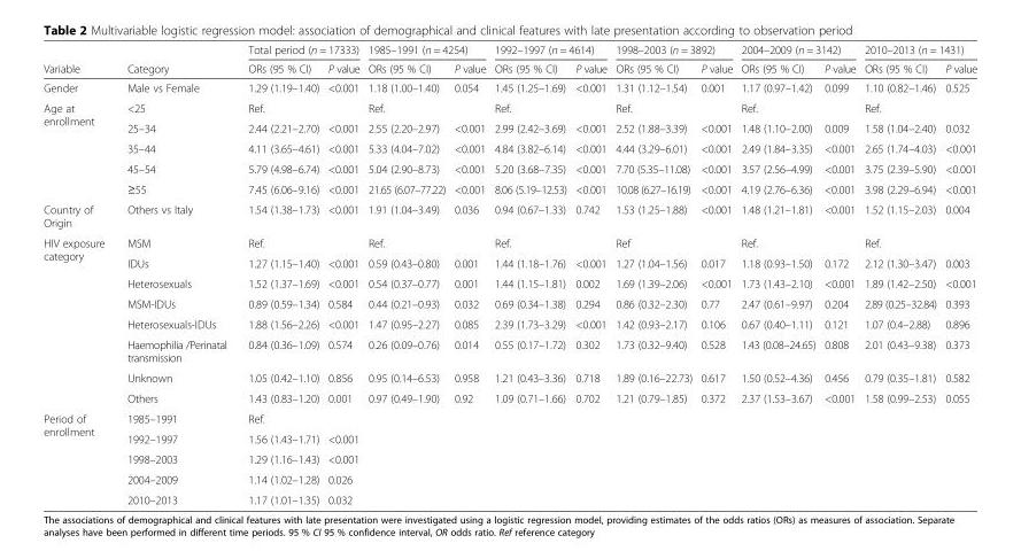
<table><thead><tr><td rowspan="2">Variable</td><td rowspan="2">Category</td><td colspan="2">Total period (n = 17333)</td><td colspan="2">1985–1991 (n = 4254)</td><td colspan="2">1992–1997 (n = 4614)</td><td colspan="2">1998–2003 (n = 3892)</td><td colspan="2">2004–2009 (n = 3142)</td><td colspan="2">2010–2013 (n = 1431)</td></tr><tr><td>ORs (95 % CI)</td><td>P value</td><td>ORs (95 % CI)</td><td>P value</td><td>ORs (95 % CI)</td><td>P value</td><td>ORs (95 % CI)</td><td>P value</td><td>ORs (95 % CI)</td><td>P value</td><td>ORs (95 % CI)</td><td>P value</td></tr></thead><tbody><tr><td>Gender</td><td>Male vs Female</td><td>1.29 (1.19–1.40)</td><td>&lt;0.001</td><td>1.18 (1.00–1.40)</td><td>0.054</td><td>1.45 (1.25–1.69)</td><td>&lt;0.001</td><td>1.31 (1.12–1.54)</td><td>0.001</td><td>1.17 (0.97–1.42)</td><td>0.099</td><td>1.10 (0.82–1.46)</td><td>0.525</td></tr><tr><td rowspan="5">Age at enrollment</td><td>&lt;25</td><td>Ref.</td><td></td><td>Ref.</td><td></td><td>Ref.</td><td></td><td>Ref.</td><td></td><td>Ref.</td><td></td><td>Ref.</td><td></td></tr><tr><td>25–34</td><td>2.44 (2.21–2.70)</td><td>&lt;0.001</td><td>2.55 (2.20–2.97)</td><td>&lt;0.001</td><td>2.99 (2.42–3.69)</td><td>&lt;0.001</td><td>2.52 (1.88–3.39)</td><td>&lt;0.001</td><td>1.48 (1.10–2.00)</td><td>0.009</td><td>1.58 (1.04–2.40)</td><td>0.032</td></tr><tr><td>35–44</td><td>4.11 (3.65–4.61)</td><td>&lt;0.001</td><td>5.33 (4.04–7.02)</td><td>&lt;0.001</td><td>4.84 (3.82–6.14)</td><td>&lt;0.001</td><td>4.44 (3.29–6.01)</td><td>&lt;0.001</td><td>2.49 (1.84–3.35)</td><td>&lt;0.001</td><td>2.65 (1.74–4.03)</td><td>&lt;0.001</td></tr><tr><td>45–54</td><td>5.79 (4.98–6.74)</td><td>&lt;0.001</td><td>5.04 (2.90–8.73)</td><td>&lt;0.001</td><td>5.20 (3.68–7.35)</td><td>&lt;0.001</td><td>7.70 (5.35–11.08)</td><td>&lt;0.001</td><td>3.57 (2.56–4.99)</td><td>&lt;0.001</td><td>3.75 (2.39–5.90)</td><td>&lt;0.001</td></tr><tr><td>≥55</td><td>7.45 (6.06–9.16)</td><td>&lt;0.001</td><td>21.65 (6.07–77.22)</td><td>&lt;0.001</td><td>8.06 (5.19–12.53)</td><td>&lt;0.001</td><td>10.08 (6.27–16.19)</td><td>&lt;0.001</td><td>4.19 (2.76–6.36)</td><td>&lt;0.001</td><td>3.98 (2.29–6.94)</td><td>&lt;0.001</td></tr><tr><td>Country of Origin</td><td>Others vs Italy</td><td>1.54 (1.38–1.73)</td><td>&lt;0.001</td><td>1.91 (1.04–3.49)</td><td>0.036</td><td>0.94 (0.67–1.33)</td><td>0.742</td><td>1.53 (1.25–1.88)</td><td>&lt;0.001</td><td>1.48 (1.21–1.81)</td><td>&lt;0.001</td><td>1.52 (1.15–2.03)</td><td>0.004</td></tr><tr><td rowspan="8">HIV exposure category</td><td>MSM</td><td>Ref.</td><td></td><td>Ref.</td><td></td><td>Ref.</td><td></td><td>Ref</td><td></td><td>Ref.</td><td></td><td>Ref.</td><td></td></tr><tr><td>IDUs</td><td>1.27 (1.15–1.40)</td><td>&lt;0.001</td><td>0.59 (0.43–0.80)</td><td>0.001</td><td>1.44 (1.18–1.76)</td><td>&lt;0.001</td><td>1.27 (1.04–1.56)</td><td>0.017</td><td>1.18 (0.93–1.50)</td><td>0.172</td><td>2.12 (1.30–3.47)</td><td>0.003</td></tr><tr><td>Heterosexuals</td><td>1.52 (1.37–1.69)</td><td>&lt;0.001</td><td>0.54 (0.37–0.77)</td><td>0.001</td><td>1.44 (1.15–1.81)</td><td>0.002</td><td>1.69 (1.39–2.06)</td><td>&lt;0.001</td><td>1.73 (1.43–2.10)</td><td>&lt;0.001</td><td>1.89 (1.42–2.50)</td><td>&lt;0.001</td></tr><tr><td>MSM-IDUs</td><td>0.89 (0.59–1.34)</td><td>0.584</td><td>0.44 (0.21–0.93)</td><td>0.032</td><td>0.69 (0.34–1.38)</td><td>0.294</td><td>0.86 (0.32–2.30)</td><td>0.77</td><td>2.47 (0.61–9.97)</td><td>0.204</td><td>2.89 (0.25–32.84)</td><td>0.393</td></tr><tr><td>Heterosexuals-IDUs</td><td>1.88 (1.56–2.26)</td><td>&lt;0.001</td><td>1.47 (0.95–2.27)</td><td>0.085</td><td>2.39 (1.73–3.29)</td><td>&lt;0.001</td><td>1.42 (0.93–2.17)</td><td>0.106</td><td>0.67 (0.40–1.11)</td><td>0.121</td><td>1.07 (0.4–2.88)</td><td>0.896</td></tr><tr><td>Haemophilia /Perinatal transmission</td><td>0.84 (0.36–1.09)</td><td>0.574</td><td>0.26 (0.09–0.76)</td><td>0.014</td><td>0.55 (0.17–1.72)</td><td>0.302</td><td>1.73 (0.32–9.40)</td><td>0.528</td><td>1.43 (0.08–24.65)</td><td>0.808</td><td>2.01 (0.43–9.38)</td><td>0.373</td></tr><tr><td>Unknown</td><td>1.05 (0.42–1.10)</td><td>0.856</td><td>0.95 (0.14–6.53)</td><td>0.958</td><td>1.21 (0.43–3.36)</td><td>0.718</td><td>1.89 (0.16–22.73)</td><td>0.617</td><td>1.50 (0.52–4.36)</td><td>0.456</td><td>0.79 (0.35–1.81)</td><td>0.582</td></tr><tr><td>Others</td><td>1.43 (0.83–1.20)</td><td>0.001</td><td>0.97 (0.49–1.90)</td><td>0.92</td><td>1.09 (0.71–1.66)</td><td>0.702</td><td>1.21 (0.79–1.85)</td><td>0.372</td><td>2.37 (1.53–3.67)</td><td>&lt;0.001</td><td>1.58 (0.99–2.53)</td><td>0.055</td></tr><tr><td rowspan="5">Period of enrollment</td><td>1985–1991</td><td>Ref.</td><td></td><td></td><td></td><td></td><td></td><td></td><td></td><td></td><td></td><td></td><td></td></tr><tr><td>1992–1997</td><td>1.56 (1.43–1.71)</td><td>&lt;0.001</td><td></td><td></td><td></td><td></td><td></td><td></td><td></td><td></td><td></td><td></td></tr><tr><td>1998–2003</td><td>1.29 (1.16–1.43)</td><td>&lt;0.001</td><td></td><td></td><td></td><td></td><td></td><td></td><td></td><td></td><td></td><td></td></tr><tr><td>2004–2009</td><td>1.14 (1.02–1.28)</td><td>0.026</td><td></td><td></td><td></td><td></td><td></td><td></td><td></td><td></td><td></td><td></td></tr><tr><td>2010–2013</td><td>1.17 (1.01–1.35)</td><td>0.032</td><td></td><td></td><td></td><td></td><td></td><td></td><td></td><td></td><td></td><td></td></tr></tbody></table>